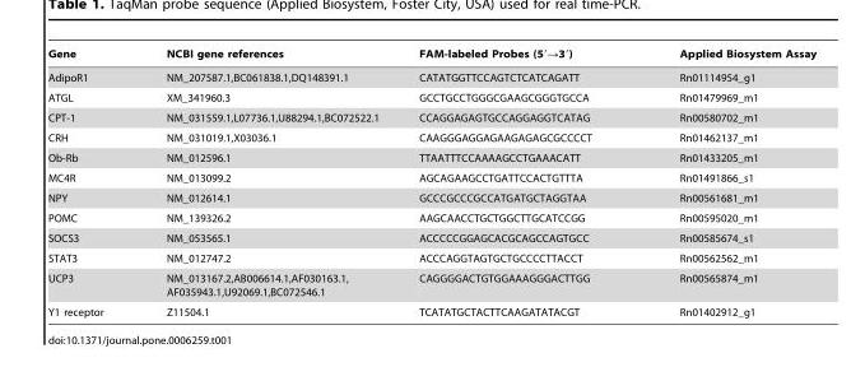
<table><thead><tr><td>Gene</td><td>NCBI gene references</td><td>FAM-labeled Probes (5′→3′)</td><td>Applied Biosystem Assay</td></tr></thead><tbody><tr><td>AdipoR1</td><td>NM_207587.1,BC061838.1,DQ148391.1</td><td>CATATGGTTCCAGTCTCATCAGATT</td><td>Rn01114954_g1</td></tr><tr><td>ATGL</td><td>XM_341960.3</td><td>GCCTGCCTGGGCGAAGCGGGTGCCA</td><td>Rn01479969_m1</td></tr><tr><td>CPT-1</td><td>NM_031559.1,L07736.1,U88294.1,BC072522.1</td><td>CCAGGAGAGTGCCAGGAGGTCATAG</td><td>Rn00580702_m1</td></tr><tr><td>CRH</td><td>NM_031019.1,X03036.1</td><td>CAAGGGAGGAGAAGAGAGCGCCCCT</td><td>Rn01462137_m1</td></tr><tr><td>Ob-Rb</td><td>NM_012596.1</td><td>TTAATTTCCAAAAGCCTGAAACATT</td><td>Rn01433205_m1</td></tr><tr><td>MC4R</td><td>NM_013099.2</td><td>AGCAGAAGCCTGATTCCACTGTTTA</td><td>Rn01491866_s1</td></tr><tr><td>NPY</td><td>NM_012614.1</td><td>GCCCGCCCGCCATGATGCTAGGTAA</td><td>Rn00561681_m1</td></tr><tr><td>POMC</td><td>NM_139326.2</td><td>AAGCAACCTGCTGGCTTGCATCCGG</td><td>Rn00595020_m1</td></tr><tr><td>SOCS3</td><td>NM_053565.1</td><td>ACCCCCGGAGCACGCAGCCAGTGCC</td><td>Rn00585674_s1</td></tr><tr><td>STAT3</td><td>NM_012747.2</td><td>ACCCAGGTAGTGCTGCCCCTTACCT</td><td>Rn00562562_m1</td></tr><tr><td>UCP3</td><td>NM_013167.2,AB006614.1,AF030163.1, AF035943.1,U92069.1,BC072546.1</td><td>CAGGGGACTGTGGAAAGGGACTTGG</td><td>Rn00565874_m1</td></tr><tr><td>Y1 receptor</td><td>Z11504.1</td><td>TCATATGCTACTTCAAGATATACGT</td><td>Rn01402912_g1</td></tr></tbody></table>